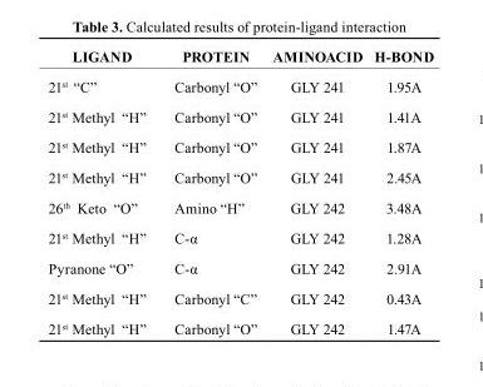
<table><thead><tr><td>LIgAND</td><td>PrOtEIN</td><td>AMINOAcID</td><td>H-BOND</td></tr></thead><tbody><tr><td>21<sup>st</sup> “C”</td><td>Carbonyl “O”</td><td>GLY 241</td><td>1.95A</td></tr><tr><td>21<sup>st</sup> Methyl “H”</td><td>Carbonyl “O”</td><td>GLY 241</td><td>1.41A</td></tr><tr><td>21<sup>st</sup> Methyl “H”</td><td>Carbonyl “O”</td><td>GLY 241</td><td>1.87A</td></tr><tr><td>21<sup>st</sup> Methyl “H”</td><td>Carbonyl “O”</td><td>GLY 241</td><td>2.45A</td></tr><tr><td>26<sup>th</sup> Keto “O”</td><td>Amino “H”</td><td>GLY 242</td><td>3.48A</td></tr><tr><td>21<sup>st</sup> Methyl “H”</td><td>C-α</td><td>GLY 242</td><td>1.28A</td></tr><tr><td>Pyranone “O”</td><td>C-α</td><td>GLY 242</td><td>2.91A</td></tr><tr><td>21<sup>st</sup> Methyl “H”</td><td>Carbonyl “C”</td><td>GLY 242</td><td>0.43A</td></tr><tr><td>21<sup>st</sup> Methyl “H”</td><td>Carbonyl “O”</td><td>GLY 242</td><td>1.47A</td></tr></tbody></table>